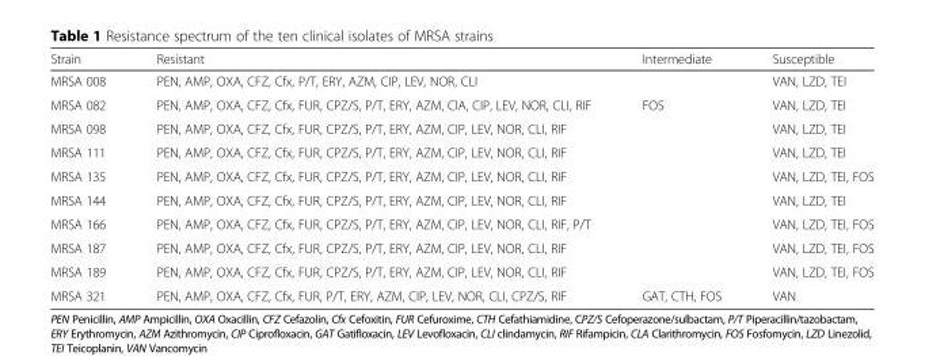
<table><thead><tr><td>Strain</td><td>Resistant</td><td>Intermediate</td><td>Susceptible</td></tr></thead><tbody><tr><td>MRSA 008</td><td>PEN, AMP, OXA, CFZ, Cfx, P/T, ERY, AZM, CIP, LEV, NOR, CLI</td><td></td><td>VAN, LZD, TEI</td></tr><tr><td>MRSA 082</td><td>PEN, AMP, OXA, CFZ, Cfx, FUR, CPZ/S, P/T, ERY, AZM, ClA, CIP, LEV, NOR, CLI, RIF</td><td>FOS</td><td>VAN, LZD, TEI</td></tr><tr><td>MRSA 098</td><td>PEN, AMP, OXA, CFZ, Cfx, FUR, CPZ/S, P/T, ERY, AZM, CIP, LEV, NOR, CLI, RIF</td><td></td><td>VAN, LZD, TEI</td></tr><tr><td>MRSA 111</td><td>PEN, AMP, OXA, CFZ, Cfx, FUR, CPZ/S, P/T, ERY, AZM, CIP, LEV, NOR, CLI, RIF</td><td></td><td>VAN, LZD, TEI</td></tr><tr><td>MRSA 135</td><td>PEN, AMP, OXA, CFZ, Cfx, FUR, CPZ/S, P/T, ERY, AZM, CIP, LEV, NOR, CLI, RIF</td><td></td><td>VAN, LZD, TEI, FOS</td></tr><tr><td>MRSA 144</td><td>PEN, AMP, OXA, CFZ, Cfx, FUR, CPZ/S, P/T, ERY, AZM, CIP, LEV, NOR, CLI, RIF</td><td></td><td>VAN, LZD, TEI</td></tr><tr><td>MRSA 166</td><td>PEN, AMP, OXA, CFZ, Cfx, FUR, CPZ/S, P/T, ERY, AZM, CIP, LEV, NOR, CLI, RIF, P/T</td><td></td><td>VAN, LZD, TEI, FOS</td></tr><tr><td>MRSA 187</td><td>PEN, AMP, OXA, CFZ, Cfx, FUR, CPZ/S, P/T, ERY, AZM, CIP, LEV, NOR, CLI, RIF</td><td></td><td>VAN, LZD, TEI, FOS</td></tr><tr><td>MRSA 189</td><td>PEN, AMP, OXA, CFZ, Cfx, FUR, CPZ/S, P/T, ERY, AZM, CIP, LEV, NOR, CLI, RIF</td><td></td><td>VAN, LZD, TEI, FOS</td></tr><tr><td>MRSA 321</td><td>PEN, AMP, OXA, CFZ, Cfx, FUR, P/T, ERY, AZM, CIP, LEV, NOR, CLI, CPZ/S, RIF</td><td>GAT, CTH, FOS</td><td>VAN</td></tr></tbody></table>